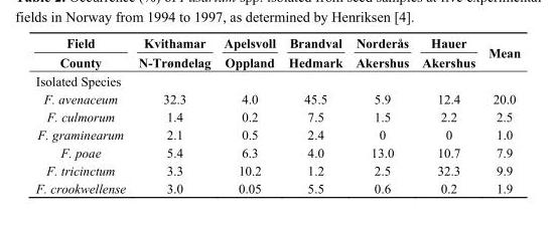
<table><thead><tr><td rowspan="2">Field County</td><td rowspan="2">Kvithamar N-Trøndelag</td><td rowspan="2">Apelsvoll Oppland</td><td rowspan="2">Brandval Hedmark</td><td rowspan="2">Norderås Akershus</td><td rowspan="2">Hauer Akershus</td><td rowspan="2">Mean</td></tr><tr></tr></thead><tbody><tr><td colspan="7">Isolated Species</td></tr><tr><td>F. avenaceum</td><td>32.3</td><td>4.0</td><td>45.5</td><td>5.9</td><td>12.4</td><td>20.0</td></tr><tr><td>F. culmorum</td><td>1.4</td><td>0.2</td><td>7.5</td><td>1.5</td><td>2.2</td><td>2.5</td></tr><tr><td>F. graminearum</td><td>2.1</td><td>0.5</td><td>2.4</td><td>0</td><td>0</td><td>1.0</td></tr><tr><td>F. poae</td><td>5.4</td><td>6.3</td><td>4.0</td><td>13.0</td><td>10.7</td><td>7.9</td></tr><tr><td>F. tricinctum</td><td>3.3</td><td>10.2</td><td>1.2</td><td>2.5</td><td>32.3</td><td>9.9</td></tr><tr><td>F. crookwellense</td><td>3.0</td><td>0.05</td><td>5.5</td><td>0.6</td><td>0.2</td><td>1.9</td></tr></tbody></table>